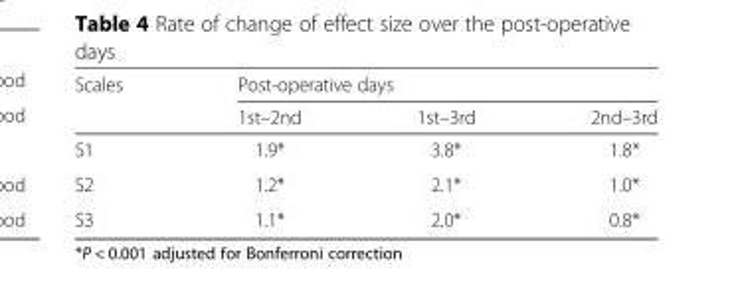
<table><thead><tr><td rowspan="2">Scales</td><td colspan="3">Post-operative days</td></tr><tr><td>1st–2nd</td><td>1st–3rd</td><td>2nd–3rd</td></tr></thead><tbody><tr><td>S1</td><td>1.9*</td><td>3.8*</td><td>1.8*</td></tr><tr><td>S2</td><td>1.2*</td><td>2.1*</td><td>1.0*</td></tr><tr><td>S3</td><td>1.1*</td><td>2.0*</td><td>0.8*</td></tr></tbody></table>